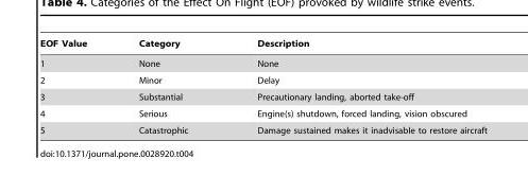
<table><thead><tr><td>EOF Value</td><td>Category</td><td>Description</td></tr></thead><tbody><tr><td>1</td><td>None</td><td>None</td></tr><tr><td>2</td><td>Minor</td><td>Delay</td></tr><tr><td>3</td><td>Substantial</td><td>Precautionary landing, aborted take-off</td></tr><tr><td>4</td><td>Serious</td><td>Engine(s) shutdown, forced landing, vision obscured</td></tr><tr><td>5</td><td>Catastrophic</td><td>Damage sustained makes it inadvisable to restore aircraft</td></tr></tbody></table>